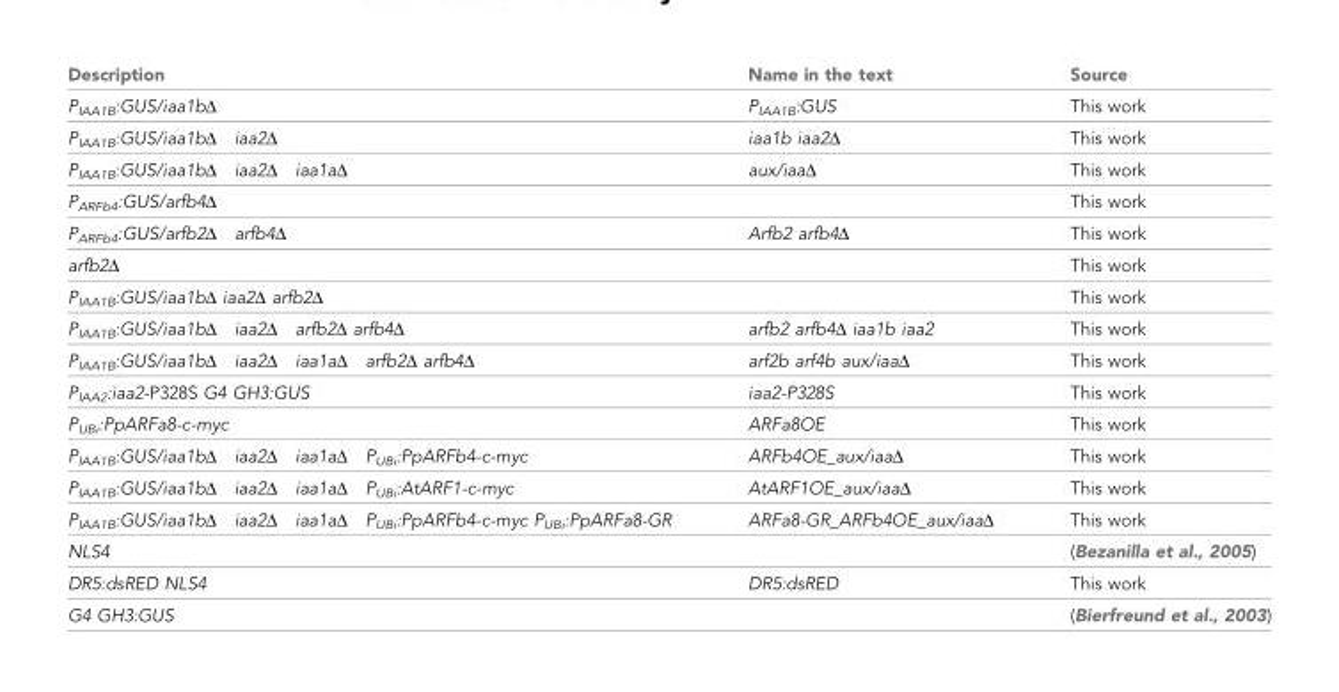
<table><thead><tr><td>Description</td><td>Name in the text</td><td>Source</td></tr></thead><tbody><tr><td>P<sub>IAA1B</sub>:GUS/iaa1bΔ</td><td>P<sub>IAA1B</sub>:GUS</td><td>This work</td></tr><tr><td>P<sub>IAA1B</sub>:GUS/iaa1bΔ iaa2Δ</td><td>iaa1b iaa2Δ</td><td>This work</td></tr><tr><td>P<sub>IAA1B</sub>:GUS/iaa1bΔ iaa2Δ iaa1aΔ</td><td>aux/iaaΔ</td><td>This work</td></tr><tr><td>P<sub>ARFb4</sub>:GUS/arfb4Δ</td><td></td><td>This work</td></tr><tr><td>P<sub>ARFb4</sub>:GUS/arfb2Δ arfb4Δ</td><td>Arfb2 arfb4Δ</td><td>This work</td></tr><tr><td>arfb2Δ</td><td></td><td>This work</td></tr><tr><td>P<sub>IAA1B</sub>:GUS/iaa1bΔ iaa2Δ arfb2Δ</td><td></td><td>This work</td></tr><tr><td>P<sub>IAA1B</sub>:GUS/iaa1bΔ iaa2Δ arfb2Δ arfb4Δ</td><td>arfb2 arfb4Δ iaa1b iaa2</td><td>This work</td></tr><tr><td>P<sub>IAA1B</sub>:GUS/iaa1bΔ iaa2Δ iaa1aΔ arfb2Δ arfb4Δ</td><td>arf2b arf4b aux/iaaΔ</td><td>This work</td></tr><tr><td>P<sub>IAA2</sub>:iaa2-P328S G4 GH3:GUS</td><td>iaa2-P328S</td><td>This work</td></tr><tr><td>P<sub>UBi</sub>:PpARFa8-c-myc</td><td>ARFa8OE</td><td>This work</td></tr><tr><td>P<sub>IAA1B</sub>:GUS/iaa1bΔ iaa2Δ iaa1aΔ P<sub>UBi</sub>:PpARFb4-c-myc</td><td>ARFb4OE_aux/iaaΔ</td><td>This work</td></tr><tr><td>P<sub>IAA1B</sub>:GUS/iaa1bΔ iaa2Δ iaa1aΔ P<sub>UBi</sub>:AtARF1-c-myc</td><td>AtARF1OE_aux/iaaΔ</td><td>This work</td></tr><tr><td>P<sub>IAA1B</sub>:GUS/iaa1bΔ iaa2Δ iaa1aΔ P<sub>UBi</sub>:PpARFb4-c-myc P<sub>UBi</sub>:PpARFa8-GR</td><td>ARFa8-GR_ARFb4OE_aux/iaaΔ</td><td>This work</td></tr><tr><td>NLS4</td><td></td><td>(Bezanilla et al., 2005)</td></tr><tr><td>DR5:dsRED NLS4</td><td>DR5:dsRED</td><td>This work</td></tr><tr><td>G4 GH3:GUS</td><td></td><td>(Bierfreund et al., 2003)</td></tr></tbody></table>